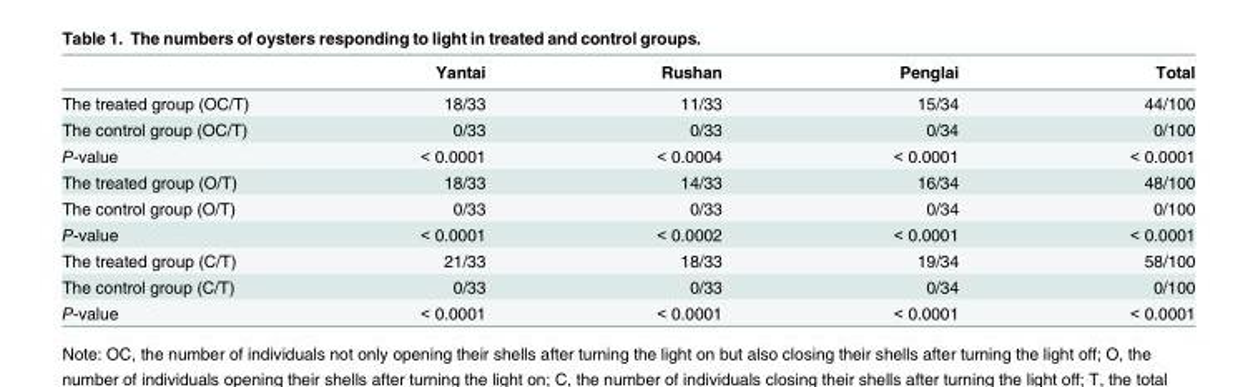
<table><thead><tr><td></td><td>Yantai</td><td>Rushan</td><td>Penglai</td><td>Total</td></tr></thead><tbody><tr><td>The treated group (OC/T)</td><td>18/33</td><td>11/33</td><td>15/34</td><td>44/100</td></tr><tr><td>The control group (OC/T)</td><td>0/33</td><td>0/33</td><td>0/34</td><td>0/100</td></tr><tr><td>P-value</td><td>&lt; 0.0001</td><td>&lt; 0.0004</td><td>&lt; 0.0001</td><td>&lt; 0.0001</td></tr><tr><td>The treated group (O/T)</td><td>18/33</td><td>14/33</td><td>16/34</td><td>48/100</td></tr><tr><td>The control group (O/T)</td><td>0/33</td><td>0/33</td><td>0/34</td><td>0/100</td></tr><tr><td>P-value</td><td>&lt; 0.0001</td><td>&lt; 0.0002</td><td>&lt; 0.0001</td><td>&lt; 0.0001</td></tr><tr><td>The treated group (C/T)</td><td>21/33</td><td>18/33</td><td>19/34</td><td>58/100</td></tr><tr><td>The control group (C/T)</td><td>0/33</td><td>0/33</td><td>0/34</td><td>0/100</td></tr><tr><td>P-value</td><td>&lt; 0.0001</td><td>&lt; 0.0001</td><td>&lt; 0.0001</td><td>&lt; 0.0001</td></tr></tbody></table>